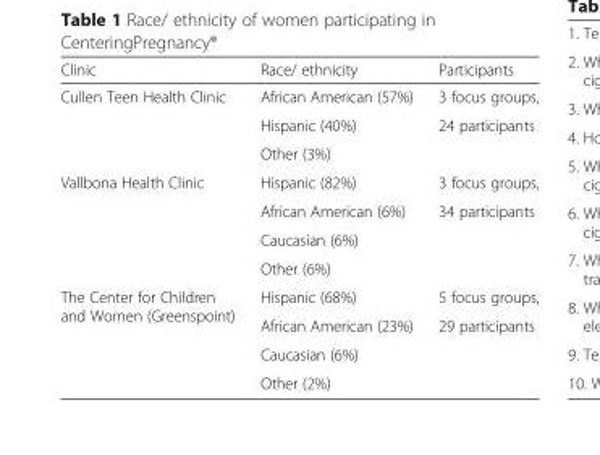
<table><thead><tr><td>Clinic</td><td>Race/ ethnicity</td><td>Participants</td></tr></thead><tbody><tr><td rowspan="3">Cullen Teen Health Clinic</td><td>African American (57%)</td><td>3 focus groups,</td></tr><tr><td>Hispanic (40%)</td><td rowspan="2">24 participants</td></tr><tr><td>Other (3%)</td></tr><tr><td rowspan="4">Vallbona Health Clinic</td><td>Hispanic (82%)</td><td>3 focus groups,</td></tr><tr><td>African American (6%)</td><td rowspan="3">34 participants</td></tr><tr><td>Caucasian (6%)</td></tr><tr><td>Other (6%)</td></tr><tr><td rowspan="4">The Center for Children and Women (Greenspoint)</td><td>Hispanic (68%)</td><td>5 focus groups,</td></tr><tr><td>African American (23%)</td><td rowspan="3">29 participants</td></tr><tr><td>Caucasian (6%)</td></tr><tr><td>Other (2%)</td></tr></tbody></table>